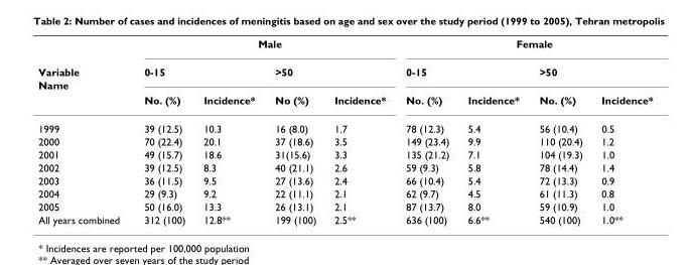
<table><thead><tr><td rowspan="2">Variable</td><td colspan="4">Male</td><td colspan="4">Female</td></tr><tr><td>0-15</td><td></td><td>&gt;50</td><td></td><td>0-15</td><td></td><td>&gt;50</td><td></td></tr></thead><tbody><tr><td colspan="9">Name</td></tr><tr><td></td><td>No. (%)</td><td>Incidence*</td><td>No (%)</td><td>Incidence*</td><td>No. (%)</td><td>Incidence*</td><td>No. (%)</td><td>Incidence*</td></tr><tr><td>1999</td><td>39 (12.5)</td><td>10.3</td><td>16 (8.0)</td><td>1.7</td><td>78 (12.3)</td><td>5.4</td><td>56 (10.4)</td><td>0.5</td></tr><tr><td>2000</td><td>70 (22.4)</td><td>20.1</td><td>37 (18.6)</td><td>3.5</td><td>149 (23.4)</td><td>9.9</td><td>110 (20.4)</td><td>1.2</td></tr><tr><td>2001</td><td>49 (15.7)</td><td>18.6</td><td>31(15.6)</td><td>3.3</td><td>135 (21.2)</td><td>7.1</td><td>104 (19.3)</td><td>1.0</td></tr><tr><td>2002</td><td>39 (12.5)</td><td>8.3</td><td>40 (21.1)</td><td>2.6</td><td>59 (9.3)</td><td>5.8</td><td>78 (14.4)</td><td>1.4</td></tr><tr><td>2003</td><td>36 (11.5)</td><td>9.5</td><td>27 (13.6)</td><td>2.4</td><td>66 (10.4)</td><td>5.4</td><td>72 (13.3)</td><td>0.9</td></tr><tr><td>2004</td><td>29 (9.3)</td><td>9.2</td><td>22 (11.1)</td><td>2.1</td><td>62 (9.7)</td><td>4.5</td><td>61 (11.3)</td><td>0.8</td></tr><tr><td>2005</td><td>50 (16.0)</td><td>13.3</td><td>26 (13.1)</td><td>2.1</td><td>87 (13.7)</td><td>8.0</td><td>59 (10.9)</td><td>1.0</td></tr><tr><td>All years combined</td><td>312 (100)</td><td>12.8**</td><td>199 (100)</td><td>2.5**</td><td>636 (100)</td><td>6.6**</td><td>540 (100)</td><td>1.0**</td></tr></tbody></table>